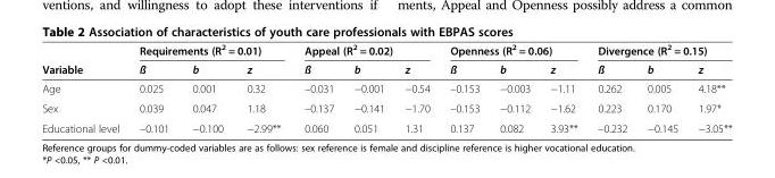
<table><thead><tr><td rowspan="2">Variable</td><td colspan="3">Requirements (R<sup>2</sup> = 0.01)</td><td colspan="3">Appeal (R<sup>2</sup> = 0.02)</td><td colspan="3">Openness (R<sup>2</sup> = 0.06)</td><td colspan="3">Divergence (R<sup>2</sup> = 0.15)</td></tr><tr><td>ß</td><td>b</td><td>z</td><td>ß</td><td>b</td><td>z</td><td>ß</td><td>b</td><td>z</td><td>ß</td><td>b</td><td>z</td></tr></thead><tbody><tr><td>Age</td><td>0.025</td><td>0.001</td><td>0.32</td><td>–0.031</td><td>−0.001</td><td>−0.54</td><td>–0.153</td><td>−0.003</td><td>−1.11</td><td>0.262</td><td>0.005</td><td>4.18**</td></tr><tr><td>Sex</td><td>0.039</td><td>0.047</td><td>1.18</td><td>–0.137</td><td>−0.141</td><td>−1.70</td><td>–0.153</td><td>−0.112</td><td>−1.62</td><td>0.223</td><td>0.170</td><td>1.97*</td></tr><tr><td>Educational level</td><td>–0.101</td><td>−0.100</td><td>−2.99**</td><td>0.060</td><td>0.051</td><td>1.31</td><td>0.137</td><td>0.082</td><td>3.93**</td><td>–0.232</td><td>−0.145</td><td>−3.05**</td></tr></tbody></table>